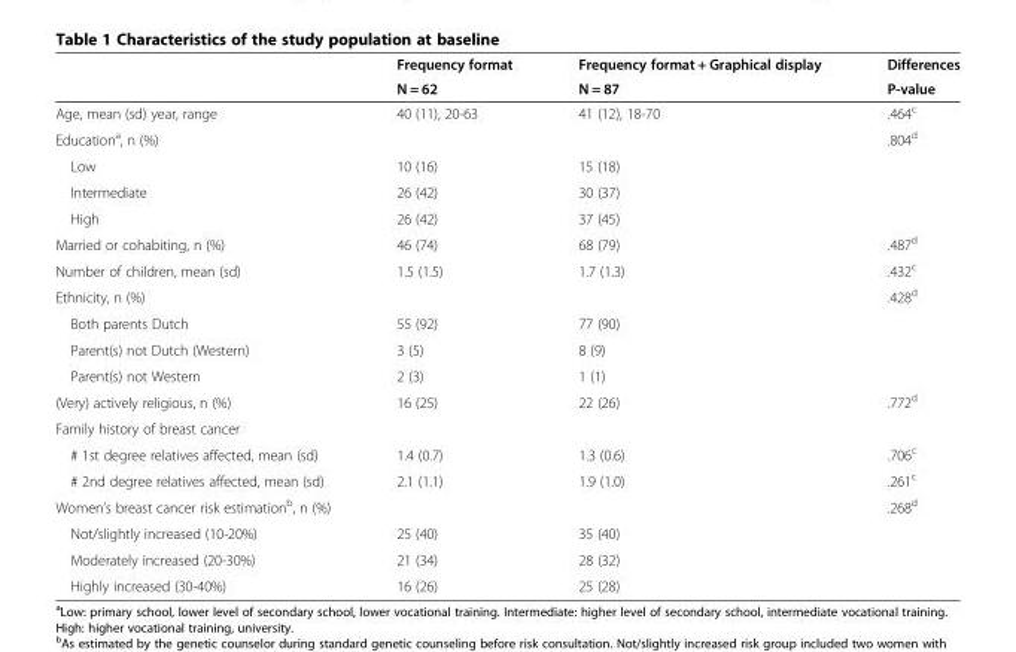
<table><thead><tr><td rowspan="2"></td><td rowspan="2">Frequency format N = 62</td><td rowspan="2">Frequency format + Graphical display N = 87</td><td rowspan="2">Differences P-value</td></tr><tr></tr></thead><tbody><tr><td>Age, mean (sd) year, range</td><td>40 (11), 20-63</td><td>41 (12), 18-70</td><td>.464<sup>c</sup></td></tr><tr><td>Education<sup>a</sup>, n (%)</td><td></td><td></td><td>.804<sup>d</sup></td></tr><tr><td>Low</td><td>10 (16)</td><td>15 (18)</td><td></td></tr><tr><td>Intermediate</td><td>26 (42)</td><td>30 (37)</td><td></td></tr><tr><td>High</td><td>26 (42)</td><td>37 (45)</td><td></td></tr><tr><td>Married or cohabiting, n (%)</td><td>46 (74)</td><td>68 (79)</td><td>.487<sup>d</sup></td></tr><tr><td>Number of children, mean (sd)</td><td>1.5 (1.5)</td><td>1.7 (1.3)</td><td>.432<sup>c</sup></td></tr><tr><td>Ethnicity, n (%)</td><td></td><td></td><td>.428<sup>d</sup></td></tr><tr><td>Both parents Dutch</td><td>55 (92)</td><td>77 (90)</td><td></td></tr><tr><td>Parent(s) not Dutch (Western)</td><td>3 (5)</td><td>8 (9)</td><td></td></tr><tr><td>Parent(s) not Western</td><td>2 (3)</td><td>1 (1)</td><td></td></tr><tr><td>(Very) actively religious, n (%)</td><td>16 (25)</td><td>22 (26)</td><td>.772<sup>d</sup></td></tr><tr><td colspan="4">Family history of breast cancer</td></tr><tr><td># 1st degree relatives affected, mean (sd)</td><td>1.4 (0.7)</td><td>1.3 (0.6)</td><td>.706<sup>c</sup></td></tr><tr><td># 2nd degree relatives affected, mean (sd)</td><td>2.1 (1.1)</td><td>1.9 (1.0)</td><td>.261<sup>c</sup></td></tr><tr><td>Women’s breast cancer risk estimation<sup>b</sup>, n (%)</td><td></td><td></td><td>.268<sup>d</sup></td></tr><tr><td>Not/slightly increased (10-20%)</td><td>25 (40)</td><td>35 (40)</td><td></td></tr><tr><td>Moderately increased (20-30%)</td><td>21 (34)</td><td>28 (32)</td><td></td></tr><tr><td>Highly increased (30-40%)</td><td>16 (26)</td><td>25 (28)</td><td></td></tr></tbody></table>